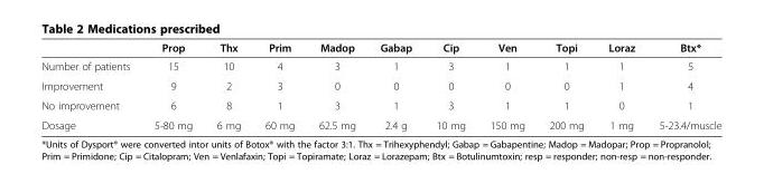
<table><thead><tr><td></td><td>Prop</td><td>Thx</td><td>Prim</td><td>Madop</td><td>Gabap</td><td>Cip</td><td>Ven</td><td>Topi</td><td>Loraz</td><td>Btx*</td></tr></thead><tbody><tr><td>Number of patients</td><td>15</td><td>10</td><td>4</td><td>3</td><td>1</td><td>3</td><td>1</td><td>1</td><td>1</td><td>5</td></tr><tr><td>Improvement</td><td>9</td><td>2</td><td>3</td><td>0</td><td>0</td><td>0</td><td>0</td><td>0</td><td>1</td><td>4</td></tr><tr><td>No improvement</td><td>6</td><td>8</td><td>1</td><td>3</td><td>1</td><td>3</td><td>1</td><td>1</td><td>0</td><td>1</td></tr><tr><td>Dosage</td><td>5-80 mg</td><td>6 mg</td><td>60 mg</td><td>62.5 mg</td><td>2.4 g</td><td>10 mg</td><td>150 mg</td><td>200 mg</td><td>1 mg</td><td>5-23.4/muscle</td></tr></tbody></table>